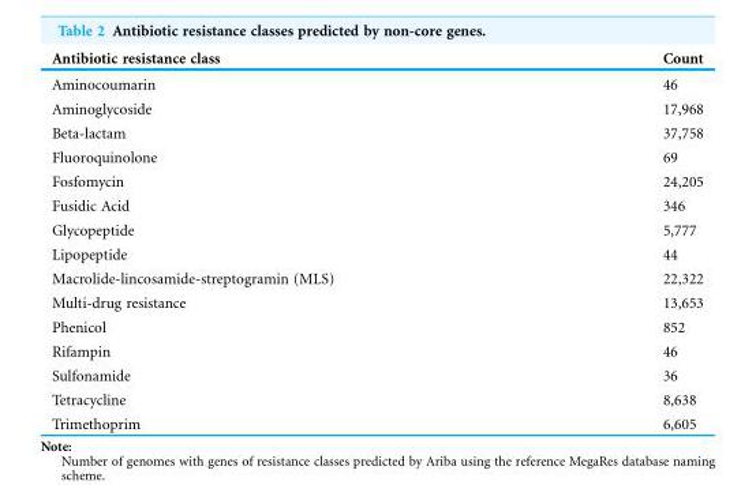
<table><thead><tr><td>Antibiotic resistance class</td><td>Count</td></tr></thead><tbody><tr><td>Aminocoumarin</td><td>46</td></tr><tr><td>Aminoglycoside</td><td>17,968</td></tr><tr><td>Beta-lactam</td><td>37,758</td></tr><tr><td>Fluoroquinolone</td><td>69</td></tr><tr><td>Fosfomycin</td><td>24,205</td></tr><tr><td>Fusidic Acid</td><td>346</td></tr><tr><td>Glycopeptide</td><td>5,777</td></tr><tr><td>Lipopeptide</td><td>44</td></tr><tr><td>Macrolide-lincosamide-streptogramin (MLS)</td><td>22,322</td></tr><tr><td>Multi-drug resistance</td><td>13,653</td></tr><tr><td>Phenicol</td><td>852</td></tr><tr><td>Rifampin</td><td>46</td></tr><tr><td>Sulfonamide</td><td>36</td></tr><tr><td>Tetracycline</td><td>8,638</td></tr><tr><td>Trimethoprim</td><td>6,605</td></tr></tbody></table>